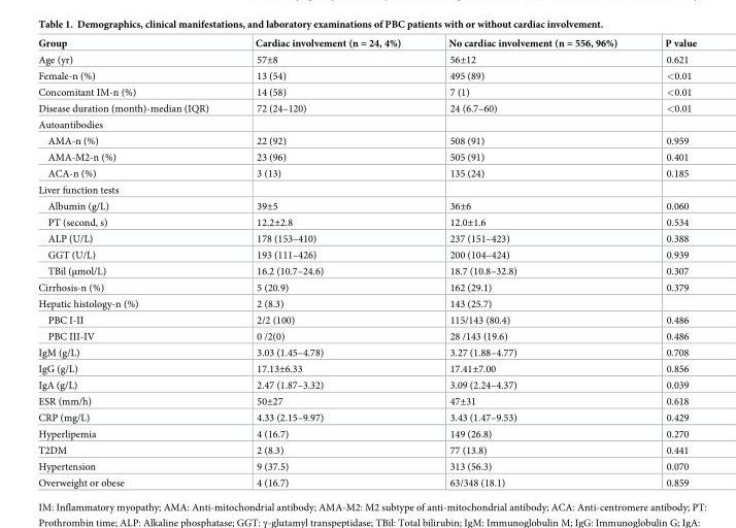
<table><thead><tr><td>Group</td><td>Cardiac involvement (n = 24, 4%)</td><td>No cardiac involvement (n = 556, 96%)</td><td>P value</td></tr></thead><tbody><tr><td>Age (yr)</td><td>57±8</td><td>56±12</td><td>0.621</td></tr><tr><td>Female-n (%)</td><td>13 (54)</td><td>495 (89)</td><td>&lt;0.01</td></tr><tr><td>Concomitant IM-n (%)</td><td>14 (58)</td><td>7 (1)</td><td>&lt;0.01</td></tr><tr><td>Disease duration (month)-median (IQR)</td><td>72 (24–120)</td><td>24 (6.7–60)</td><td>&lt;0.01</td></tr><tr><td colspan="4">Autoantibodies</td></tr><tr><td>AMA-n (%)</td><td>22 (92)</td><td>508 (91)</td><td>0.959</td></tr><tr><td>AMA-M2-n (%)</td><td>23 (96)</td><td>505 (91)</td><td>0.401</td></tr><tr><td>ACA-n (%)</td><td>3 (13)</td><td>135 (24)</td><td>0.185</td></tr><tr><td colspan="4">Liver function tests</td></tr><tr><td>Albumin (g/L)</td><td>39±5</td><td>36±6</td><td>0.060</td></tr><tr><td>PT (second, s)</td><td>12.2±2.8</td><td>12.0±1.6</td><td>0.534</td></tr><tr><td>ALP (U/L)</td><td>178 (153–410)</td><td>237 (151–423)</td><td>0.388</td></tr><tr><td>GGT (U/L)</td><td>193 (111–426)</td><td>200 (104–424)</td><td>0.939</td></tr><tr><td>TBil (μmol/L)</td><td>16.2 (10.7–24.6)</td><td>18.7 (10.8–32.8)</td><td>0.307</td></tr><tr><td>Cirrhosis-n (%)</td><td>5 (20.9)</td><td>162 (29.1)</td><td>0.379</td></tr><tr><td>Hepatic histology-n (%)</td><td>2 (8.3)</td><td>143 (25.7)</td><td></td></tr><tr><td>PBC I-II</td><td>2/2 (100)</td><td>115/143 (80.4)</td><td>0.486</td></tr><tr><td>PBC III-IV</td><td>0 /2(0)</td><td>28 /143 (19.6)</td><td>0.486</td></tr><tr><td>IgM (g/L)</td><td>3.03 (1.45–4.78)</td><td>3.27 (1.88–4.77)</td><td>0.708</td></tr><tr><td>IgG (g/L)</td><td>17.13±6.33</td><td>17.41±7.00</td><td>0.856</td></tr><tr><td>IgA (g/L)</td><td>2.47 (1.87–3.32)</td><td>3.09 (2.24–4.37)</td><td>0.039</td></tr><tr><td>ESR (mm/h)</td><td>50±27</td><td>47±31</td><td>0.618</td></tr><tr><td>CRP (mg/L)</td><td>4.33 (2.15–9.97)</td><td>3.43 (1.47–9.53)</td><td>0.429</td></tr><tr><td>Hyperlipemia</td><td>4 (16.7)</td><td>149 (26.8)</td><td>0.270</td></tr><tr><td>T2DM</td><td>2 (8.3)</td><td>77 (13.8)</td><td>0.441</td></tr><tr><td>Hypertension</td><td>9 (37.5)</td><td>313 (56.3)</td><td>0.070</td></tr><tr><td>Overweight or obese</td><td>4 (16.7)</td><td>63/348 (18.1)</td><td>0.859</td></tr></tbody></table>